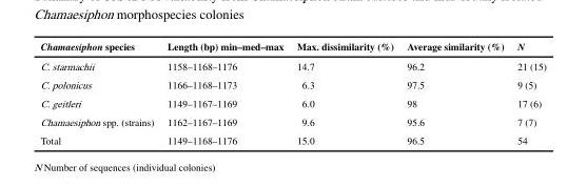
<table><thead><tr><td>Chamaesiphon species</td><td>Length (bp) min–med–max</td><td>Max. dissimilarity (%)</td><td>Average similarity (%)</td><td>N</td></tr></thead><tbody><tr><td>C. starmachii</td><td>1158–1168–1176</td><td>14.7</td><td>96.2</td><td>21 (15)</td></tr><tr><td>C. polonicus</td><td>1166–1168–1173</td><td>6.3</td><td>97.5</td><td>9 (5)</td></tr><tr><td>C. geitleri</td><td>1149–1167–1169</td><td>6.0</td><td>98</td><td>17 (6)</td></tr><tr><td>Chamaesiphon spp. (strains)</td><td>1162–1167–1169</td><td>9.6</td><td>95.6</td><td>7 (7)</td></tr><tr><td>Total</td><td>1149–1168–1176</td><td>15.0</td><td>96.5</td><td>54</td></tr></tbody></table>